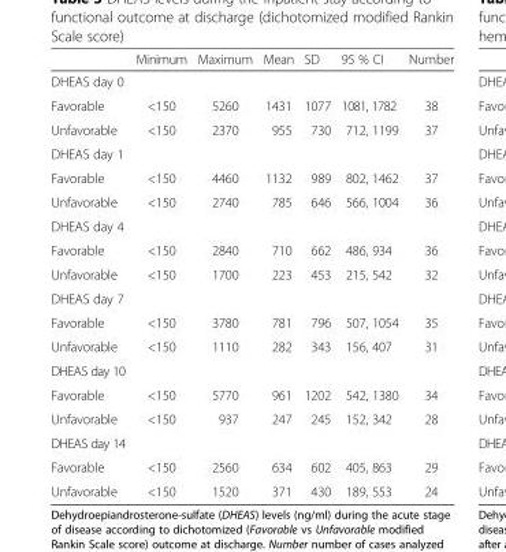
<table><thead><tr><td></td><td>Minimum</td><td>Maximum</td><td>Mean</td><td>SD</td><td>95 % CI</td><td>Number</td></tr></thead><tbody><tr><td colspan="7">DHEAS day 0</td></tr><tr><td>Favorable</td><td>&lt;150</td><td>5260</td><td>1431</td><td>1077</td><td>1081, 1782</td><td>38</td></tr><tr><td>Unfavorable</td><td>&lt;150</td><td>2370</td><td>955</td><td>730</td><td>712, 1199</td><td>37</td></tr><tr><td colspan="7">DHEAS day 1</td></tr><tr><td>Favorable</td><td>&lt;150</td><td>4460</td><td>1132</td><td>989</td><td>802, 1462</td><td>37</td></tr><tr><td>Unfavorable</td><td>&lt;150</td><td>2740</td><td>785</td><td>646</td><td>566, 1004</td><td>36</td></tr><tr><td colspan="7">DHEAS day 4</td></tr><tr><td>Favorable</td><td>&lt;150</td><td>2840</td><td>710</td><td>662</td><td>486, 934</td><td>36</td></tr><tr><td>Unfavorable</td><td>&lt;150</td><td>1700</td><td>223</td><td>453</td><td>215, 542</td><td>32</td></tr><tr><td colspan="7">DHEAS day 7</td></tr><tr><td>Favorable</td><td>&lt;150</td><td>3780</td><td>781</td><td>796</td><td>507, 1054</td><td>35</td></tr><tr><td>Unfavorable</td><td>&lt;150</td><td>1110</td><td>282</td><td>343</td><td>156, 407</td><td>31</td></tr><tr><td colspan="7">DHEAS day 10</td></tr><tr><td>Favorable</td><td>&lt;150</td><td>5770</td><td>961</td><td>1202</td><td>542, 1380</td><td>34</td></tr><tr><td>Unfavorable</td><td>&lt;150</td><td>937</td><td>247</td><td>245</td><td>152, 342</td><td>28</td></tr><tr><td colspan="7">DHEAS day 14</td></tr><tr><td>Favorable</td><td>&lt;150</td><td>2560</td><td>634</td><td>602</td><td>405, 863</td><td>29</td></tr><tr><td>Unfavorable</td><td>&lt;150</td><td>1520</td><td>371</td><td>430</td><td>189, 553</td><td>24</td></tr></tbody></table>